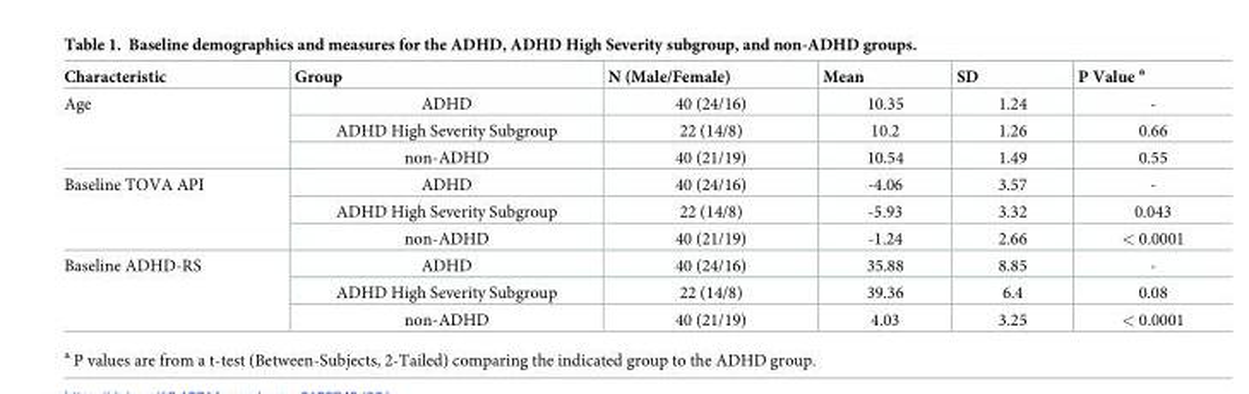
<table><thead><tr><td>Characteristic</td><td>Group</td><td>N (Male/Female)</td><td>Mean</td><td>SD</td><td>P Value <sup>a</sup></td></tr></thead><tbody><tr><td rowspan="3">Age</td><td>ADHD</td><td>40 (24/16)</td><td>10.35</td><td>1.24</td><td>-</td></tr><tr><td>ADHD High Severity Subgroup</td><td>22 (14/8)</td><td>10.2</td><td>1.26</td><td>0.66</td></tr><tr><td>non-ADHD</td><td>40 (21/19)</td><td>10.54</td><td>1.49</td><td>0.55</td></tr><tr><td rowspan="3">Baseline TOVA API</td><td>ADHD</td><td>40 (24/16)</td><td>-4.06</td><td>3.57</td><td>-</td></tr><tr><td>ADHD High Severity Subgroup</td><td>22 (14/8)</td><td>-5.93</td><td>3.32</td><td>0.043</td></tr><tr><td>non-ADHD</td><td>40 (21/19)</td><td>-1.24</td><td>2.66</td><td>&lt; 0.0001</td></tr><tr><td rowspan="3">Baseline ADHD-RS</td><td>ADHD</td><td>40 (24/16)</td><td>35.88</td><td>8.85</td><td>-</td></tr><tr><td>ADHD High Severity Subgroup</td><td>22 (14/8)</td><td>39.36</td><td>6.4</td><td>0.08</td></tr><tr><td>non-ADHD</td><td>40 (21/19)</td><td>4.03</td><td>3.25</td><td>&lt; 0.0001</td></tr></tbody></table>